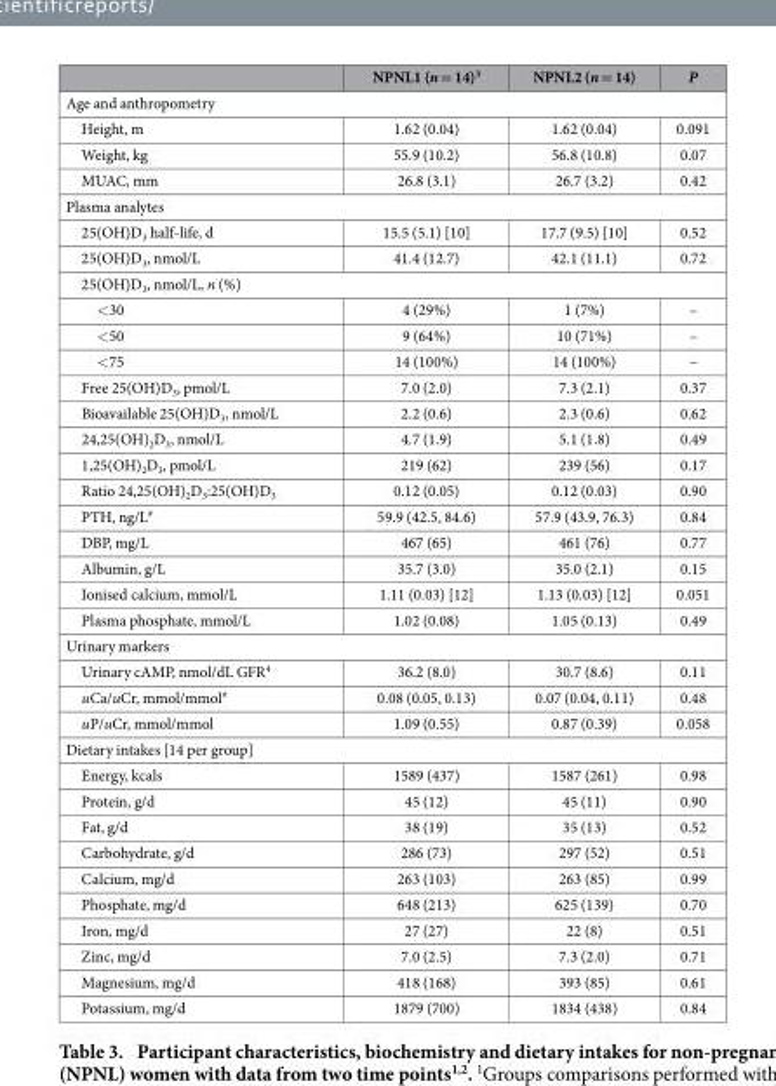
<table><thead><tr><td></td><td>NPNL1 (n = 14)<sup>3</sup></td><td>NPNL2 (n = 14)</td><td>P</td></tr></thead><tbody><tr><td colspan="4">Age and anthropometry</td></tr><tr><td>Height, m</td><td>1.62 (0.04)</td><td>1.62 (0.04)</td><td>0.091</td></tr><tr><td>Weight, kg</td><td>55.9 (10.2)</td><td>56.8 (10.8)</td><td>0.07</td></tr><tr><td>MUAC, mm</td><td>26.8 (3.1)</td><td>26.7 (3.2)</td><td>0.42</td></tr><tr><td colspan="4">Plasma analytes</td></tr><tr><td>25(OH)D<sub>3</sub> half-life, d</td><td>15.5 (5.1) [10]</td><td>17.7 (9.5) [10]</td><td>0.52</td></tr><tr><td>25(OH)D<sub>3</sub>, nmol/L</td><td>41.4 (12.7)</td><td>42.1 (11.1)</td><td>0.72</td></tr><tr><td colspan="4">25(OH)D<sub>3</sub>, nmol/L, n (%)</td></tr><tr><td>&lt; 30</td><td>4 (29%)</td><td>1 (7%)</td><td>–</td></tr><tr><td>&lt; 50</td><td>9 (64%)</td><td>10 (71%)</td><td>–</td></tr><tr><td>&lt; 75</td><td>14 (100%)</td><td>14 (100%)</td><td>–</td></tr><tr><td>Free 25(OH)D<sub>3</sub>, pmol/L</td><td>7.0 (2.0)</td><td>7.3 (2.1)</td><td>0.37</td></tr><tr><td>Bioavailable 25(OH)D<sub>3</sub>, nmol/L</td><td>2.2 (0.6)</td><td>2.3 (0.6)</td><td>0.62</td></tr><tr><td>24,25(OH)<sub>2</sub>D<sub>3</sub>, nmol/L</td><td>4.7 (1.9)</td><td>5.1 (1.8)</td><td>0.49</td></tr><tr><td>1,25(OH)<sub>2</sub>D<sub>3</sub>, pmol/L</td><td>219 (62)</td><td>239 (56)</td><td>0.17</td></tr><tr><td>Ratio 24,25(OH)<sub>2</sub>D<sub>3</sub>:25(OH)D<sub>3</sub></td><td>0.12 (0.05)</td><td>0.12 (0.03)</td><td>0.90</td></tr><tr><td>PTH, ng/L<sup>#</sup></td><td>59.9 (42.5, 84.6)</td><td>57.9 (43.9, 76.3)</td><td>0.84</td></tr><tr><td>DBP, mg/L</td><td>467 (65)</td><td>461 (76)</td><td>0.77</td></tr><tr><td>Albumin, g/L</td><td>35.7 (3.0)</td><td>35.0 (2.1)</td><td>0.15</td></tr><tr><td>Ionised calcium, mmol/L</td><td>1.11 (0.03) [12]</td><td>1.13 (0.03) [12]</td><td>0.051</td></tr><tr><td>Plasma phosphate, mmol/L</td><td>1.02 (0.08)</td><td>1.05 (0.13)</td><td>0.49</td></tr><tr><td colspan="4">Urinary markers</td></tr><tr><td>Urinary cAMP, nmol/dL GFR<sup>4</sup></td><td>36.2 (8.0)</td><td>30.7 (8.6)</td><td>0.11</td></tr><tr><td>uCa/uCr, mmol/mmol<sup>#</sup></td><td>0.08 (0.05, 0.13)</td><td>0.07 (0.04, 0.11)</td><td>0.48</td></tr><tr><td>uP/uCr, mmol/mmol</td><td>1.09 (0.55)</td><td>0.87 (0.39)</td><td>0.058</td></tr><tr><td colspan="4">Dietary intakes [14 per group]</td></tr><tr><td>Energy, kcals</td><td>1589 (437)</td><td>1587 (261)</td><td>0.98</td></tr><tr><td>Protein, g/d</td><td>45 (12)</td><td>45 (11)</td><td>0.90</td></tr><tr><td>Fat, g/d</td><td>38 (19)</td><td>35 (13)</td><td>0.52</td></tr><tr><td>Carbohydrate, g/d</td><td>286 (73)</td><td>297 (52)</td><td>0.51</td></tr><tr><td>Calcium, mg/d</td><td>263 (103)</td><td>263 (85)</td><td>0.99</td></tr><tr><td>Phosphate, mg/d</td><td>648 (213)</td><td>625 (139)</td><td>0.70</td></tr><tr><td>Iron, mg/d</td><td>27 (27)</td><td>22 (8)</td><td>0.51</td></tr><tr><td>Zinc, mg/d</td><td>7.0 (2.5)</td><td>7.3 (2.0)</td><td>0.71</td></tr><tr><td>Magnesium, mg/d</td><td>418 (168)</td><td>393 (85)</td><td>0.61</td></tr><tr><td>Potassium, mg/d</td><td>1879 (700)</td><td>1834 (438)</td><td>0.84</td></tr></tbody></table>